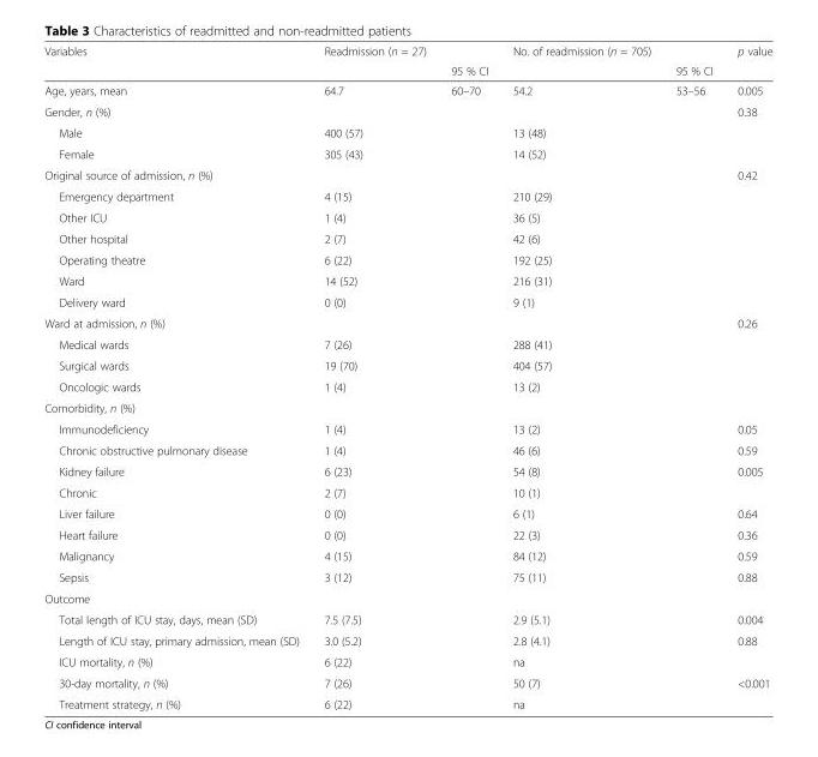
<table><thead><tr><td rowspan="2">Variables</td><td rowspan="2">Readmission (n = 27)</td><td rowspan="2">95 % CI</td><td rowspan="2">No. of readmission (n = 705)</td><td rowspan="2">95 % CI</td><td rowspan="2">p value</td></tr><tr></tr></thead><tbody><tr><td>Age, years, mean</td><td>64.7</td><td>60–70</td><td>54.2</td><td>53–56</td><td>0.005</td></tr><tr><td>Gender, n (%)</td><td></td><td></td><td></td><td></td><td>0.38</td></tr><tr><td>Male</td><td>400 (57)</td><td></td><td>13 (48)</td><td></td><td></td></tr><tr><td>Female</td><td>305 (43)</td><td></td><td>14 (52)</td><td></td><td></td></tr><tr><td>Original source of admission, n (%)</td><td></td><td></td><td></td><td></td><td>0.42</td></tr><tr><td>Emergency department</td><td>4 (15)</td><td></td><td>210 (29)</td><td></td><td></td></tr><tr><td>Other ICU</td><td>1 (4)</td><td></td><td>36 (5)</td><td></td><td></td></tr><tr><td>Other hospital</td><td>2 (7)</td><td></td><td>42 (6)</td><td></td><td></td></tr><tr><td>Operating theatre</td><td>6 (22)</td><td></td><td>192 (25)</td><td></td><td></td></tr><tr><td>Ward</td><td>14 (52)</td><td></td><td>216 (31)</td><td></td><td></td></tr><tr><td>Delivery ward</td><td>0 (0)</td><td></td><td>9 (1)</td><td></td><td></td></tr><tr><td>Ward at admission, n (%)</td><td></td><td></td><td></td><td></td><td>0.26</td></tr><tr><td>Medical wards</td><td>7 (26)</td><td></td><td>288 (41)</td><td></td><td></td></tr><tr><td>Surgical wards</td><td>19 (70)</td><td></td><td>404 (57)</td><td></td><td></td></tr><tr><td>Oncologic wards</td><td>1 (4)</td><td></td><td>13 (2)</td><td></td><td></td></tr><tr><td colspan="6">Comorbidity, n (%)</td></tr><tr><td>Immunodeficiency</td><td>1 (4)</td><td></td><td>13 (2)</td><td></td><td>0.05</td></tr><tr><td>Chronic obstructive pulmonary disease</td><td>1 (4)</td><td></td><td>46 (6)</td><td></td><td>0.59</td></tr><tr><td>Kidney failure</td><td>6 (23)</td><td></td><td>54 (8)</td><td></td><td>0.005</td></tr><tr><td>Chronic</td><td>2 (7)</td><td></td><td>10 (1)</td><td></td><td></td></tr><tr><td>Liver failure</td><td>0 (0)</td><td></td><td>6 (1)</td><td></td><td>0.64</td></tr><tr><td>Heart failure</td><td>0 (0)</td><td></td><td>22 (3)</td><td></td><td>0.36</td></tr><tr><td>Malignancy</td><td>4 (15)</td><td></td><td>84 (12)</td><td></td><td>0.59</td></tr><tr><td>Sepsis</td><td>3 (12)</td><td></td><td>75 (11)</td><td></td><td>0.88</td></tr><tr><td colspan="6">Outcome</td></tr><tr><td>Total length of ICU stay, days, mean (SD)</td><td>7.5 (7.5)</td><td></td><td>2.9 (5.1)</td><td></td><td>0.004</td></tr><tr><td>Length of ICU stay, primary admission, mean (SD)</td><td>3.0 (5.2)</td><td></td><td>2.8 (4.1)</td><td></td><td>0.88</td></tr><tr><td>ICU mortality, n (%)</td><td>6 (22)</td><td></td><td>na</td><td></td><td></td></tr><tr><td>30-day mortality, n (%)</td><td>7 (26)</td><td></td><td>50 (7)</td><td></td><td>&lt;0.001</td></tr><tr><td>Treatment strategy, n (%)</td><td>6 (22)</td><td></td><td>na</td><td></td><td></td></tr></tbody></table>